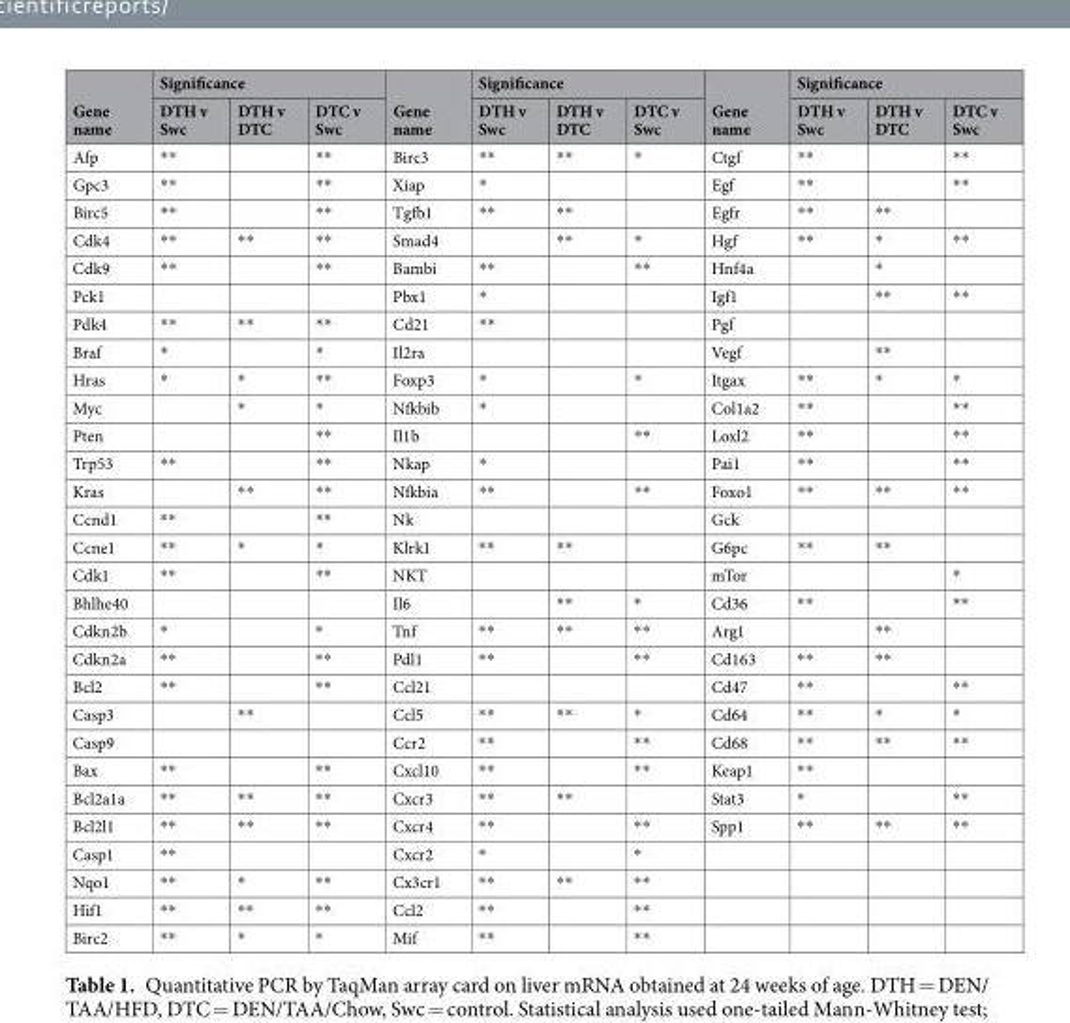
<table><thead><tr><td rowspan="2">Gene name</td><td colspan="3">Significance</td><td rowspan="2">Gene name</td><td colspan="3">Significance</td><td rowspan="2">Gene name</td><td colspan="3">Significance</td></tr><tr><td>DTH v Swc</td><td>DTH v DTC</td><td>DTC v Swc</td><td>DTH v Swc</td><td>DTH v DTC</td><td>DTC v Swc</td><td>DTH v Swc</td><td>DTH v DTC</td><td>DTC v Swc</td></tr></thead><tbody><tr><td>Afp</td><td>**</td><td></td><td>**</td><td>Birc3</td><td>**</td><td>**</td><td>*</td><td>Ctgf</td><td>**</td><td></td><td>**</td></tr><tr><td>Gpc3</td><td>**</td><td></td><td>**</td><td>Xiap</td><td>*</td><td></td><td></td><td>Egf</td><td>**</td><td></td><td>**</td></tr><tr><td>Birc5</td><td>**</td><td></td><td>**</td><td>Tgfb1</td><td>**</td><td>**</td><td></td><td>Egfr</td><td>**</td><td>**</td><td></td></tr><tr><td>Cdk4</td><td>**</td><td>**</td><td>**</td><td>Smad4</td><td></td><td>**</td><td>*</td><td>Hgf</td><td>**</td><td>*</td><td>**</td></tr><tr><td>Cdk9</td><td>**</td><td></td><td>**</td><td>Bambi</td><td>**</td><td></td><td>**</td><td>Hnf4a</td><td></td><td>*</td><td></td></tr><tr><td>Pck1</td><td></td><td></td><td></td><td>Pbx1</td><td>*</td><td></td><td></td><td>Igf1</td><td></td><td>**</td><td>**</td></tr><tr><td>Pdk4</td><td>**</td><td>**</td><td>**</td><td>Cd21</td><td>**</td><td></td><td></td><td>Pgf</td><td></td><td></td><td></td></tr><tr><td>Braf</td><td>*</td><td></td><td>*</td><td>Il2ra</td><td></td><td></td><td></td><td>Vegf</td><td></td><td>**</td><td></td></tr><tr><td>Hras</td><td>*</td><td>*</td><td>**</td><td>Foxp3</td><td>*</td><td></td><td>*</td><td>Itgax</td><td>**</td><td>*</td><td>*</td></tr><tr><td>Myc</td><td></td><td>*</td><td>*</td><td>Nfkbib</td><td>*</td><td></td><td></td><td>Col1a2</td><td>**</td><td></td><td>**</td></tr><tr><td>Pten</td><td></td><td></td><td>**</td><td>Il1b</td><td></td><td></td><td>**</td><td>Loxl2</td><td>**</td><td></td><td>**</td></tr><tr><td>Trp53</td><td>**</td><td></td><td>**</td><td>Nkap</td><td>*</td><td></td><td></td><td>Pai1</td><td>**</td><td></td><td>**</td></tr><tr><td>Kras</td><td></td><td>**</td><td>**</td><td>Nfkbia</td><td>**</td><td></td><td>**</td><td>Foxo1</td><td>**</td><td>**</td><td>**</td></tr><tr><td>Ccnd1</td><td>**</td><td></td><td>**</td><td>Nk</td><td></td><td></td><td></td><td>Gck</td><td></td><td></td><td></td></tr><tr><td>Ccne1</td><td>**</td><td>*</td><td>*</td><td>Klrk1</td><td>**</td><td>**</td><td></td><td>G6pc</td><td>**</td><td>**</td><td></td></tr><tr><td>Cdk1</td><td>**</td><td></td><td>**</td><td>NKT</td><td></td><td></td><td></td><td>mTor</td><td></td><td></td><td>*</td></tr><tr><td>Bhlhe40</td><td></td><td></td><td></td><td>Il6</td><td></td><td>**</td><td>*</td><td>Cd36</td><td>**</td><td></td><td>**</td></tr><tr><td>Cdkn2b</td><td>*</td><td></td><td>*</td><td>Tnf</td><td>**</td><td>**</td><td>**</td><td>Arg1</td><td></td><td>**</td><td></td></tr><tr><td>Cdkn2a</td><td>**</td><td></td><td>**</td><td>Pdl1</td><td>**</td><td></td><td>**</td><td>Cd163</td><td>**</td><td>**</td><td></td></tr><tr><td>Bcl2</td><td>**</td><td></td><td>**</td><td>Ccl21</td><td></td><td></td><td></td><td>Cd47</td><td>**</td><td></td><td>**</td></tr><tr><td>Casp3</td><td></td><td>**</td><td></td><td>Ccl5</td><td>**</td><td>**</td><td>*</td><td>Cd64</td><td>**</td><td>*</td><td>*</td></tr><tr><td>Casp9</td><td></td><td></td><td></td><td>Ccr2</td><td>**</td><td></td><td>**</td><td>Cd68</td><td>**</td><td>**</td><td>**</td></tr><tr><td>Bax</td><td>**</td><td></td><td>**</td><td>Cxcl10</td><td>**</td><td></td><td>**</td><td>Keap1</td><td>**</td><td></td><td></td></tr><tr><td>Bcl2a1a</td><td>**</td><td>**</td><td>**</td><td>Cxcr3</td><td>**</td><td>**</td><td></td><td>Stat3</td><td>*</td><td></td><td>**</td></tr><tr><td>Bcl2l1</td><td>**</td><td>**</td><td>**</td><td>Cxcr4</td><td>**</td><td></td><td>**</td><td>Spp1</td><td>**</td><td>**</td><td>**</td></tr><tr><td>Casp1</td><td>**</td><td></td><td></td><td>Cxcr2</td><td>*</td><td></td><td>*</td><td></td><td></td><td></td><td></td></tr><tr><td>Nqo1</td><td>**</td><td>*</td><td>**</td><td>Cx3cr1</td><td>**</td><td>**</td><td>**</td><td></td><td></td><td></td><td></td></tr><tr><td>Hif1</td><td>**</td><td>**</td><td>**</td><td>Ccl2</td><td>**</td><td></td><td>**</td><td></td><td></td><td></td><td></td></tr><tr><td>Birc2</td><td>**</td><td>*</td><td>*</td><td>Mif</td><td>**</td><td></td><td>**</td><td></td><td></td><td></td><td></td></tr></tbody></table>